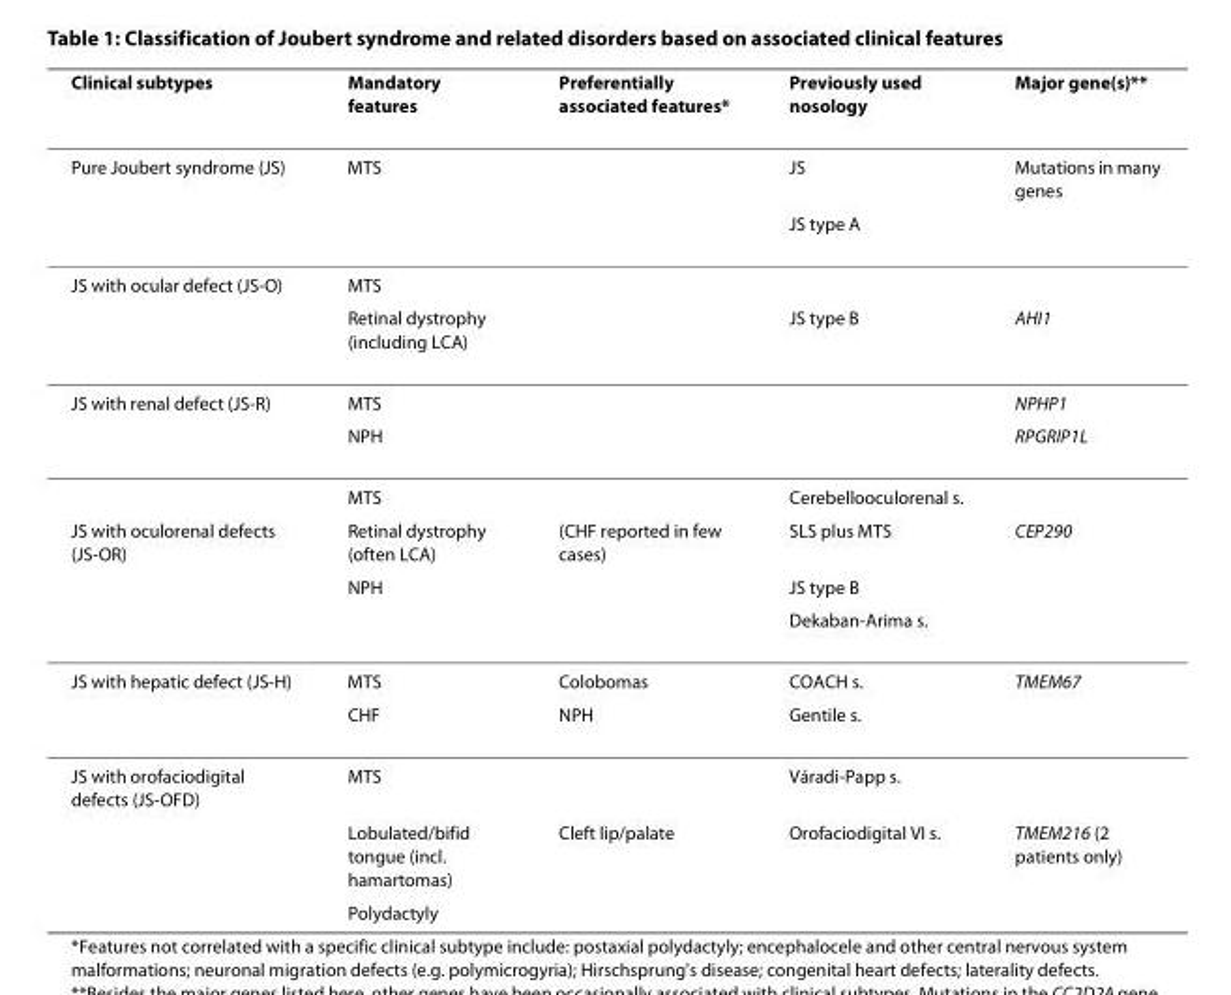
<table><thead><tr><td>Clinical subtypes</td><td>Mandatory features</td><td>Preferentially associated features*</td><td>Previously used nosology</td><td>Major gene(s)**</td></tr></thead><tbody><tr><td rowspan="2">Pure Joubert syndrome (JS)</td><td>MTS</td><td></td><td>JS</td><td>Mutations in many genes</td></tr><tr><td></td><td></td><td>JS type A</td><td></td></tr><tr><td rowspan="2">JS with ocular defect (JS-O)</td><td>MTS</td><td></td><td></td><td></td></tr><tr><td>Retinal dystrophy (including LCA)</td><td></td><td>JS type B</td><td>AHI1</td></tr><tr><td rowspan="3">JS with renal defect (JS-R)</td><td>MTS</td><td></td><td></td><td>NPHP1</td></tr><tr><td>NPH</td><td></td><td></td><td>RPGRIP1L</td></tr><tr><td>MTS</td><td></td><td>Cerebellooculorenal s.</td><td></td></tr><tr><td rowspan="3">JS with oculorenal defects (JS-OR)</td><td>Retinal dystrophy (often LCA)</td><td>(CHF reported in few cases)</td><td>SLS plus MTS</td><td>CEP290</td></tr><tr><td>NPH</td><td></td><td>JS type B</td><td></td></tr><tr><td></td><td></td><td>Dekaban-Arima s.</td><td></td></tr><tr><td rowspan="2">JS with hepatic defect (JS-H)</td><td>MTS</td><td>Colobomas</td><td>COACH s.</td><td>TMEM67</td></tr><tr><td>CHF</td><td>NPH</td><td>Gentile s.</td><td></td></tr><tr><td rowspan="3">JS with orofaciodigital defects (JS-OFD)</td><td>MTS</td><td></td><td>Váradi-Papp s.</td><td></td></tr><tr><td>Lobulated/bifid tongue (incl. hamartomas)</td><td>Cleft lip/palate</td><td>Orofaciodigital VI s.</td><td>TMEM216 (2 patients only)</td></tr><tr><td>Polydactyly</td><td></td><td></td><td></td></tr></tbody></table>